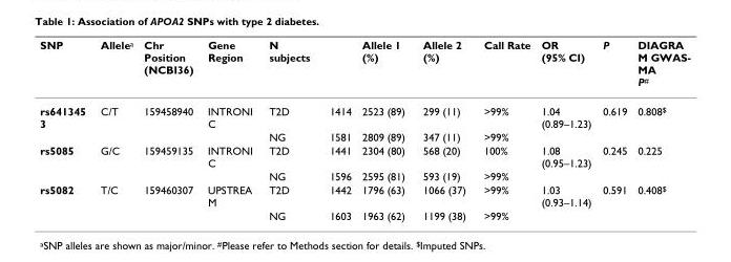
<table><thead><tr><td>SNP</td><td>Allele<sup>a</sup></td><td>Chr Position (NCBI36)</td><td>Gene Region</td><td>N subjects</td><td></td><td>Allele 1 (%)</td><td>Allele 2 (%)</td><td>Call Rate</td><td>OR (95% CI)</td><td>P</td><td>DIAGRA M GWAS- MA P<sup>#</sup></td></tr></thead><tbody><tr><td rowspan="2">rs641345 3</td><td>C/T</td><td>159458940</td><td>INTRONI C</td><td>T2D</td><td>1414</td><td>2523 (89)</td><td>299 (11)</td><td>&gt;99%</td><td>1.04 (0.89–1.23)</td><td>0.619</td><td>0.808<sup>$</sup></td></tr><tr><td></td><td></td><td></td><td>NG</td><td>1581</td><td>2809 (89)</td><td>347 (11)</td><td>&gt;99%</td><td></td><td></td><td></td></tr><tr><td rowspan="2">rs5085</td><td>G/C</td><td>159459135</td><td>INTRONI C</td><td>T2D</td><td>1441</td><td>2304 (80)</td><td>568 (20)</td><td>100%</td><td>1.08 (0.95–1.23)</td><td>0.245</td><td>0.225</td></tr><tr><td></td><td></td><td></td><td>NG</td><td>1596</td><td>2595 (81)</td><td>593 (19)</td><td>&gt;99%</td><td></td><td></td><td></td></tr><tr><td rowspan="2">rs5082</td><td>T/C</td><td>159460307</td><td>UPSTREA M</td><td>T2D</td><td>1442</td><td>1796 (63)</td><td>1066 (37)</td><td>&gt;99%</td><td>1.03 (0.93–1.14)</td><td>0.591</td><td>0.408<sup>$</sup></td></tr><tr><td></td><td></td><td></td><td>NG</td><td>1603</td><td>1963 (62)</td><td>1199 (38)</td><td>&gt;99%</td><td></td><td></td><td></td></tr></tbody></table>